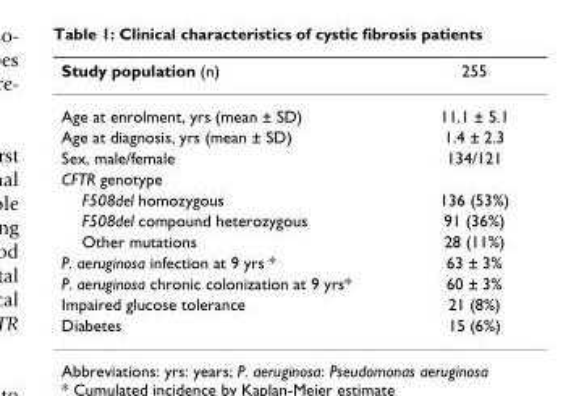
<table><thead><tr><td>Study population (n)</td><td>255</td></tr></thead><tbody><tr><td>Age at enrolment, yrs (mean ± SD)</td><td>11.1 ± 5.1</td></tr><tr><td>Age at diagnosis, yrs (mean ± SD)</td><td>1.4 ± 2.3</td></tr><tr><td>Sex, male/female</td><td>134/121</td></tr><tr><td colspan="2">CFTR genotype</td></tr><tr><td>F508del homozygous</td><td>136 (53%)</td></tr><tr><td>F508del compound heterozygous</td><td>91 (36%)</td></tr><tr><td>Other mutations</td><td>28 (11%)</td></tr><tr><td>P. aeruginosa infection at 9 yrs *</td><td>63 ± 3%</td></tr><tr><td>P. aeruginosa chronic colonization at 9 yrs*</td><td>60 ± 3%</td></tr><tr><td>Impaired glucose tolerance</td><td>21 (8%)</td></tr><tr><td>Diabetes</td><td>15 (6%)</td></tr></tbody></table>